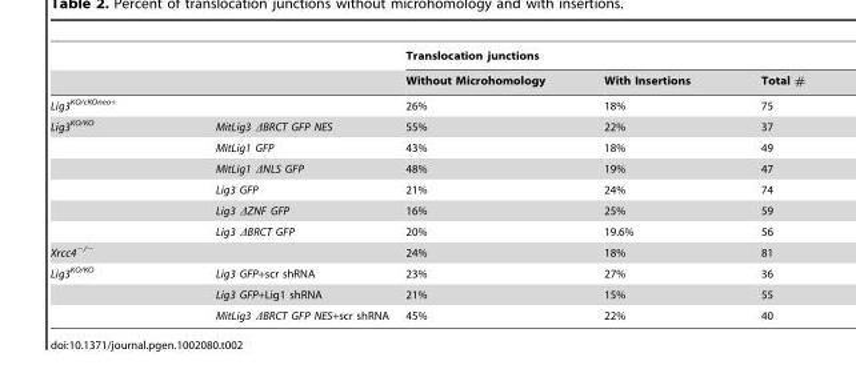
<table><thead><tr><td rowspan="2"></td><td rowspan="2"></td><td colspan="3">Translocation junctions</td></tr><tr><td>Without Microhomology</td><td>With Insertions</td><td>Total #</td></tr></thead><tbody><tr><td colspan="2">Lig3<sup>KO/cKOneo+</sup></td><td>26%</td><td>18%</td><td>75</td></tr><tr><td rowspan="6">Lig3<sup>KO/KO</sup></td><td>MitLig3 ΔBRCT GFP NES</td><td>55%</td><td>22%</td><td>37</td></tr><tr><td>MitLig1 GFP</td><td>43%</td><td>18%</td><td>49</td></tr><tr><td>MitLig1 ΔNLS GFP</td><td>48%</td><td>19%</td><td>47</td></tr><tr><td>Lig3 GFP</td><td>21%</td><td>24%</td><td>74</td></tr><tr><td>Lig3 ΔZNF GFP</td><td>16%</td><td>25%</td><td>59</td></tr><tr><td>Lig3 ΔBRCT GFP</td><td>20%</td><td>19.6%</td><td>56</td></tr><tr><td>Xrcc4<sup>−/−</sup></td><td></td><td>24%</td><td>18%</td><td>81</td></tr><tr><td rowspan="3">Lig3<sup>KO/KO</sup></td><td>Lig3 GFP+scr shRNA</td><td>23%</td><td>27%</td><td>36</td></tr><tr><td>Lig3 GFP+Lig1 shRNA</td><td>21%</td><td>15%</td><td>55</td></tr><tr><td>MitLig3 ΔBRCT GFP NES+scr shRNA</td><td>45%</td><td>22%</td><td>40</td></tr></tbody></table>